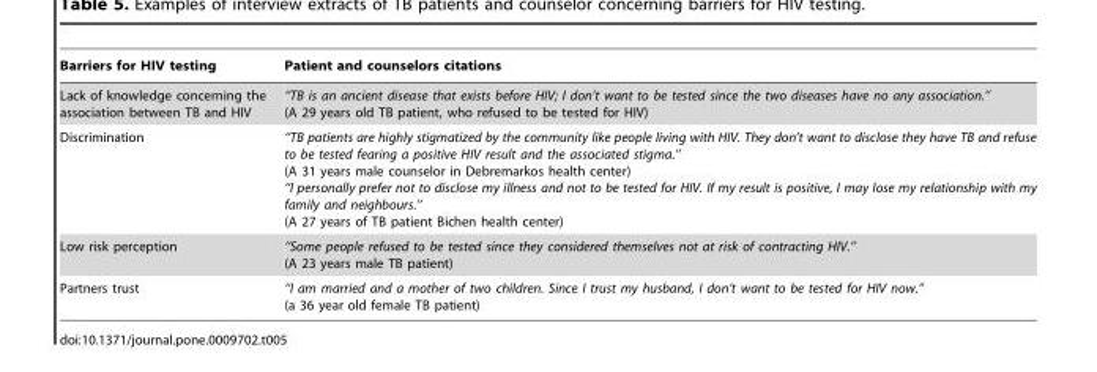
<table><thead><tr><td>Barriers for HIV testing</td><td>Patient and counselors citations</td></tr></thead><tbody><tr><td>Lack of knowledge concerning the association between TB and HIV</td><td>‘‘TB is an ancient disease that exists before HIV; I don’t want to be tested since the two diseases have no any association.’’ (A 29 years old TB patient, who refused to be tested for HIV)</td></tr><tr><td>Discrimination</td><td>‘‘TB patients are highly stigmatized by the community like people living with HIV. They don’t want to disclose they have TB and refuse to be tested fearing a positive HIV result and the associated stigma.’’ (A 31 years male counselor in Debremarkos health center) ‘‘I personally prefer not to disclose my illness and not to be tested for HIV. If my result is positive, I may lose my relationship with my family and neighbours.’’ (A 27 years of TB patient Bichen health center)</td></tr><tr><td>Low risk perception</td><td>‘‘Some people refused to be tested since they considered themselves not at risk of contracting HIV.’’ (A 23 years male TB patient)</td></tr><tr><td>Partners trust</td><td>‘‘I am married and a mother of two children. Since I trust my husband, I don’t want to be tested for HIV now.’’ (a 36 year old female TB patient)</td></tr></tbody></table>